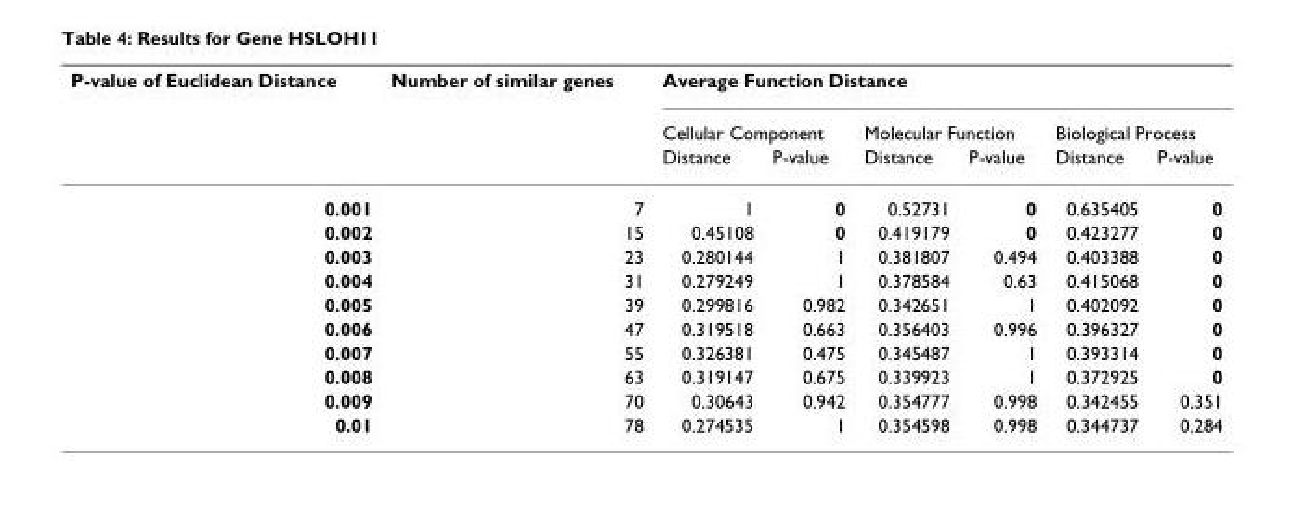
<table><thead><tr><td rowspan="3">P-value of Euclidean Distance</td><td rowspan="3">Number of similar genes</td><td colspan="6">Average Function Distance</td></tr><tr><td colspan="2">Cellular Component</td><td colspan="2">Molecular Function</td><td colspan="2">Biological Process</td></tr><tr><td>Distance</td><td>P-value</td><td>Distance</td><td>P-value</td><td>Distance</td><td>P-value</td></tr></thead><tbody><tr><td>0.001</td><td>7</td><td>1</td><td>0</td><td>0.52731</td><td>0</td><td>0.635405</td><td>0</td></tr><tr><td>0.002</td><td>15</td><td>0.45108</td><td>0</td><td>0.419179</td><td>0</td><td>0.423277</td><td>0</td></tr><tr><td>0.003</td><td>23</td><td>0.280144</td><td>1</td><td>0.381807</td><td>0.494</td><td>0.403388</td><td>0</td></tr><tr><td>0.004</td><td>31</td><td>0.279249</td><td>1</td><td>0.378584</td><td>0.63</td><td>0.415068</td><td>0</td></tr><tr><td>0.005</td><td>39</td><td>0.299816</td><td>0.982</td><td>0.342651</td><td>1</td><td>0.402092</td><td>0</td></tr><tr><td>0.006</td><td>47</td><td>0.319518</td><td>0.663</td><td>0.356403</td><td>0.996</td><td>0.396327</td><td>0</td></tr><tr><td>0.007</td><td>55</td><td>0.326381</td><td>0.475</td><td>0.345487</td><td>1</td><td>0.393314</td><td>0</td></tr><tr><td>0.008</td><td>63</td><td>0.319147</td><td>0.675</td><td>0.339923</td><td>1</td><td>0.372925</td><td>0</td></tr><tr><td>0.009</td><td>70</td><td>0.30643</td><td>0.942</td><td>0.354777</td><td>0.998</td><td>0.342455</td><td>0.351</td></tr><tr><td>0.01</td><td>78</td><td>0.274535</td><td>1</td><td>0.354598</td><td>0.998</td><td>0.344737</td><td>0.284</td></tr></tbody></table>